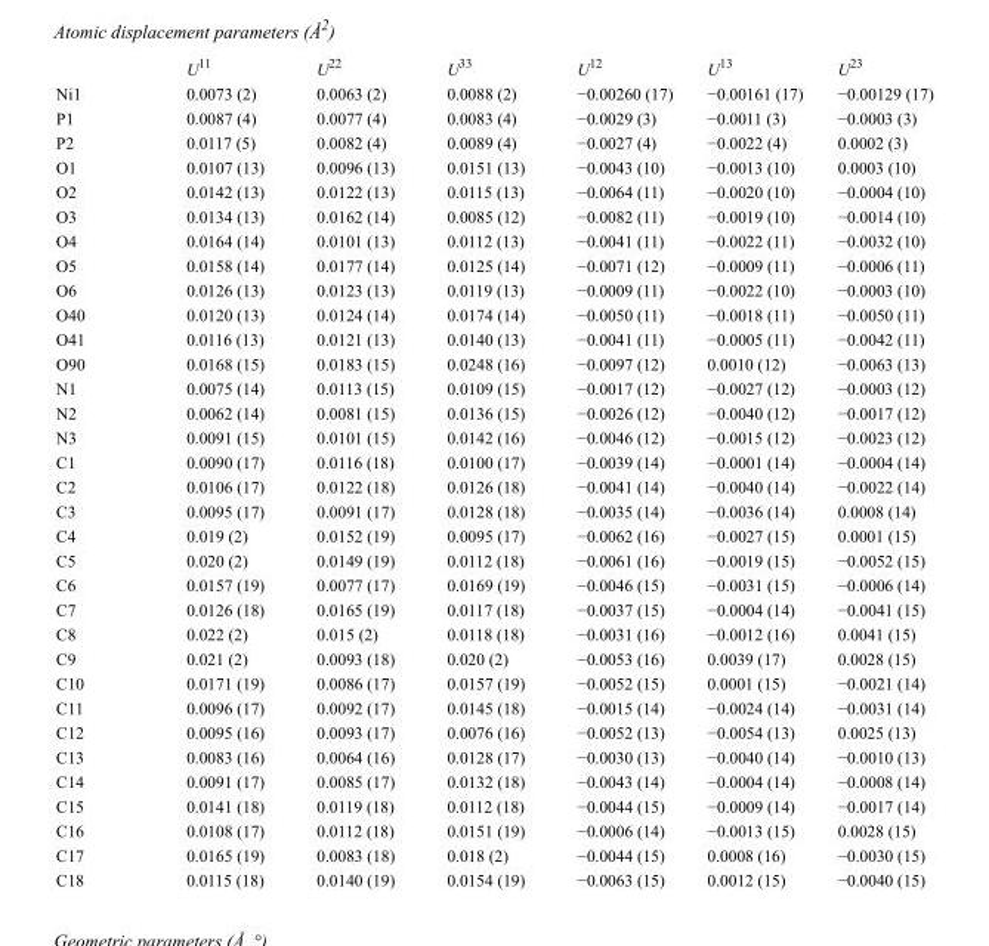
<table><thead><tr><td></td><td>U<sup>11</sup></td><td>U<sup>22</sup></td><td>U<sup>33</sup></td><td>U<sup>12</sup></td><td>U<sup>13</sup></td><td>U<sup>23</sup></td></tr></thead><tbody><tr><td>Ni1</td><td>0.0073 (2)</td><td>0.0063 (2)</td><td>0.0088 (2)</td><td>−0.00260 (17)</td><td>−0.00161 (17)</td><td>−0.00129 (17)</td></tr><tr><td>P1</td><td>0.0087 (4)</td><td>0.0077 (4)</td><td>0.0083 (4)</td><td>−0.0029 (3)</td><td>−0.0011 (3)</td><td>−0.0003 (3)</td></tr><tr><td>P2</td><td>0.0117 (5)</td><td>0.0082 (4)</td><td>0.0089 (4)</td><td>−0.0027 (4)</td><td>−0.0022 (4)</td><td>0.0002 (3)</td></tr><tr><td>O1</td><td>0.0107 (13)</td><td>0.0096 (13)</td><td>0.0151 (13)</td><td>−0.0043 (10)</td><td>−0.0013 (10)</td><td>0.0003 (10)</td></tr><tr><td>O2</td><td>0.0142 (13)</td><td>0.0122 (13)</td><td>0.0115 (13)</td><td>−0.0064 (11)</td><td>−0.0020 (10)</td><td>−0.0004 (10)</td></tr><tr><td>O3</td><td>0.0134 (13)</td><td>0.0162 (14)</td><td>0.0085 (12)</td><td>−0.0082 (11)</td><td>−0.0019 (10)</td><td>−0.0014 (10)</td></tr><tr><td>O4</td><td>0.0164 (14)</td><td>0.0101 (13)</td><td>0.0112 (13)</td><td>−0.0041 (11)</td><td>−0.0022 (11)</td><td>−0.0032 (10)</td></tr><tr><td>O5</td><td>0.0158 (14)</td><td>0.0177 (14)</td><td>0.0125 (14)</td><td>−0.0071 (12)</td><td>−0.0009 (11)</td><td>−0.0006 (11)</td></tr><tr><td>O6</td><td>0.0126 (13)</td><td>0.0123 (13)</td><td>0.0119 (13)</td><td>−0.0009 (11)</td><td>−0.0022 (10)</td><td>−0.0003 (10)</td></tr><tr><td>O40</td><td>0.0120 (13)</td><td>0.0124 (14)</td><td>0.0174 (14)</td><td>−0.0050 (11)</td><td>−0.0018 (11)</td><td>−0.0050 (11)</td></tr><tr><td>O41</td><td>0.0116 (13)</td><td>0.0121 (13)</td><td>0.0140 (13)</td><td>−0.0041 (11)</td><td>−0.0005 (11)</td><td>−0.0042 (11)</td></tr><tr><td>O90</td><td>0.0168 (15)</td><td>0.0183 (15)</td><td>0.0248 (16)</td><td>−0.0097 (12)</td><td>0.0010 (12)</td><td>−0.0063 (13)</td></tr><tr><td>N1</td><td>0.0075 (14)</td><td>0.0113 (15)</td><td>0.0109 (15)</td><td>−0.0017 (12)</td><td>−0.0027 (12)</td><td>−0.0003 (12)</td></tr><tr><td>N2</td><td>0.0062 (14)</td><td>0.0081 (15)</td><td>0.0136 (15)</td><td>−0.0026 (12)</td><td>−0.0040 (12)</td><td>−0.0017 (12)</td></tr><tr><td>N3</td><td>0.0091 (15)</td><td>0.0101 (15)</td><td>0.0142 (16)</td><td>−0.0046 (12)</td><td>−0.0015 (12)</td><td>−0.0023 (12)</td></tr><tr><td>C1</td><td>0.0090 (17)</td><td>0.0116 (18)</td><td>0.0100 (17)</td><td>−0.0039 (14)</td><td>−0.0001 (14)</td><td>−0.0004 (14)</td></tr><tr><td>C2</td><td>0.0106 (17)</td><td>0.0122 (18)</td><td>0.0126 (18)</td><td>−0.0041 (14)</td><td>−0.0040 (14)</td><td>−0.0022 (14)</td></tr><tr><td>C3</td><td>0.0095 (17)</td><td>0.0091 (17)</td><td>0.0128 (18)</td><td>−0.0035 (14)</td><td>−0.0036 (14)</td><td>0.0008 (14)</td></tr><tr><td>C4</td><td>0.019 (2)</td><td>0.0152 (19)</td><td>0.0095 (17)</td><td>−0.0062 (16)</td><td>−0.0027 (15)</td><td>0.0001 (15)</td></tr><tr><td>C5</td><td>0.020 (2)</td><td>0.0149 (19)</td><td>0.0112 (18)</td><td>−0.0061 (16)</td><td>−0.0019 (15)</td><td>−0.0052 (15)</td></tr><tr><td>C6</td><td>0.0157 (19)</td><td>0.0077 (17)</td><td>0.0169 (19)</td><td>−0.0046 (15)</td><td>−0.0031 (15)</td><td>−0.0006 (14)</td></tr><tr><td>C7</td><td>0.0126 (18)</td><td>0.0165 (19)</td><td>0.0117 (18)</td><td>−0.0037 (15)</td><td>−0.0004 (14)</td><td>−0.0041 (15)</td></tr><tr><td>C8</td><td>0.022 (2)</td><td>0.015 (2)</td><td>0.0118 (18)</td><td>−0.0031 (16)</td><td>−0.0012 (16)</td><td>0.0041 (15)</td></tr><tr><td>C9</td><td>0.021 (2)</td><td>0.0093 (18)</td><td>0.020 (2)</td><td>−0.0053 (16)</td><td>0.0039 (17)</td><td>0.0028 (15)</td></tr><tr><td>C10</td><td>0.0171 (19)</td><td>0.0086 (17)</td><td>0.0157 (19)</td><td>−0.0052 (15)</td><td>0.0001 (15)</td><td>−0.0021 (14)</td></tr><tr><td>C11</td><td>0.0096 (17)</td><td>0.0092 (17)</td><td>0.0145 (18)</td><td>−0.0015 (14)</td><td>−0.0024 (14)</td><td>−0.0031 (14)</td></tr><tr><td>C12</td><td>0.0095 (16)</td><td>0.0093 (17)</td><td>0.0076 (16)</td><td>−0.0052 (13)</td><td>−0.0054 (13)</td><td>0.0025 (13)</td></tr><tr><td>C13</td><td>0.0083 (16)</td><td>0.0064 (16)</td><td>0.0128 (17)</td><td>−0.0030 (13)</td><td>−0.0040 (14)</td><td>−0.0010 (13)</td></tr><tr><td>C14</td><td>0.0091 (17)</td><td>0.0085 (17)</td><td>0.0132 (18)</td><td>−0.0043 (14)</td><td>−0.0004 (14)</td><td>−0.0008 (14)</td></tr><tr><td>C15</td><td>0.0141 (18)</td><td>0.0119 (18)</td><td>0.0112 (18)</td><td>−0.0044 (15)</td><td>−0.0009 (14)</td><td>−0.0017 (14)</td></tr><tr><td>C16</td><td>0.0108 (17)</td><td>0.0112 (18)</td><td>0.0151 (19)</td><td>−0.0006 (14)</td><td>−0.0013 (15)</td><td>0.0028 (15)</td></tr><tr><td>C17</td><td>0.0165 (19)</td><td>0.0083 (18)</td><td>0.018 (2)</td><td>−0.0044 (15)</td><td>0.0008 (16)</td><td>−0.0030 (15)</td></tr><tr><td>C18</td><td>0.0115 (18)</td><td>0.0140 (19)</td><td>0.0154 (19)</td><td>−0.0063 (15)</td><td>0.0012 (15)</td><td>−0.0040 (15)</td></tr></tbody></table>